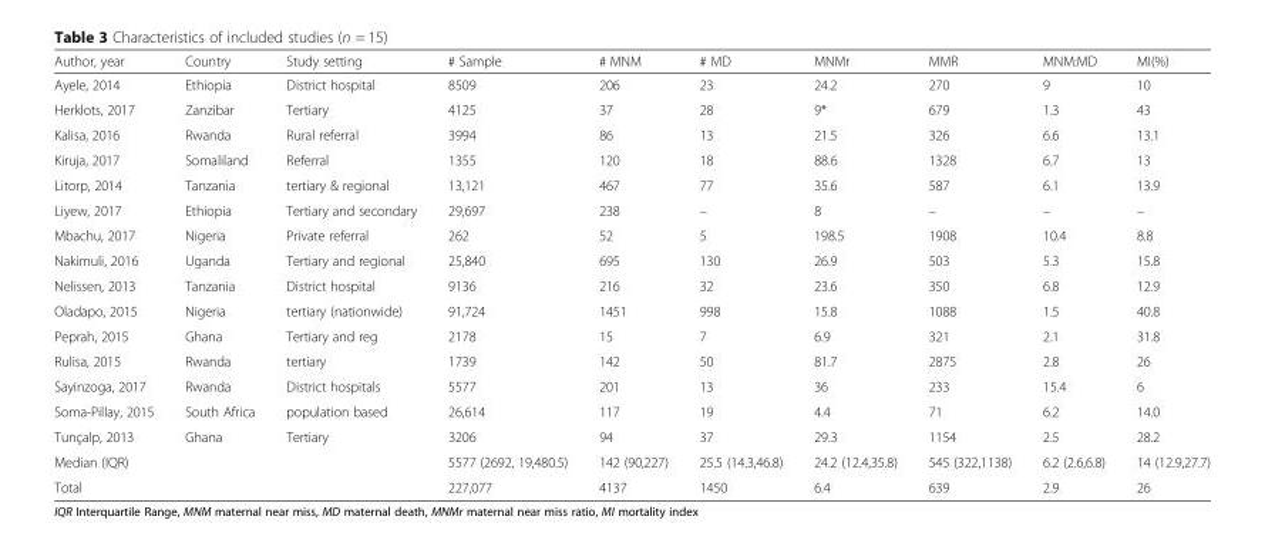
<table><thead><tr><td>Author, year</td><td>Country</td><td>Study setting</td><td># Sample</td><td># MNM</td><td># MD</td><td>MNMr</td><td>MMR</td><td>MNM:MD</td><td>MI(%)</td></tr></thead><tbody><tr><td>Ayele, 2014</td><td>Ethiopia</td><td>District hospital</td><td>8509</td><td>206</td><td>23</td><td>24.2</td><td>270</td><td>9</td><td>10</td></tr><tr><td>Herklots, 2017</td><td>Zanzibar</td><td>Tertiary</td><td>4125</td><td>37</td><td>28</td><td>9*</td><td>679</td><td>1.3</td><td>43</td></tr><tr><td>Kalisa, 2016</td><td>Rwanda</td><td>Rural referral</td><td>3994</td><td>86</td><td>13</td><td>21.5</td><td>326</td><td>6.6</td><td>13.1</td></tr><tr><td>Kiruja, 2017</td><td>Somaliland</td><td>Referral</td><td>1355</td><td>120</td><td>18</td><td>88.6</td><td>1328</td><td>6.7</td><td>13</td></tr><tr><td>Litorp, 2014</td><td>Tanzania</td><td>tertiary &amp; regional</td><td>13,121</td><td>467</td><td>77</td><td>35.6</td><td>587</td><td>6.1</td><td>13.9</td></tr><tr><td>Liyew, 2017</td><td>Ethiopia</td><td>Tertiary and secondary</td><td>29,697</td><td>238</td><td>–</td><td>8</td><td>–</td><td>–</td><td>–</td></tr><tr><td>Mbachu, 2017</td><td>Nigeria</td><td>Private referral</td><td>262</td><td>52</td><td>5</td><td>198.5</td><td>1908</td><td>10.4</td><td>8.8</td></tr><tr><td>Nakimuli, 2016</td><td>Uganda</td><td>Tertiary and regional</td><td>25,840</td><td>695</td><td>130</td><td>26.9</td><td>503</td><td>5.3</td><td>15.8</td></tr><tr><td>Nelissen, 2013</td><td>Tanzania</td><td>District hospital</td><td>9136</td><td>216</td><td>32</td><td>23.6</td><td>350</td><td>6.8</td><td>12.9</td></tr><tr><td>Oladapo, 2015</td><td>Nigeria</td><td>tertiary (nationwide)</td><td>91,724</td><td>1451</td><td>998</td><td>15.8</td><td>1088</td><td>1.5</td><td>40.8</td></tr><tr><td>Peprah, 2015</td><td>Ghana</td><td>Tertiary and reg</td><td>2178</td><td>15</td><td>7</td><td>6.9</td><td>321</td><td>2.1</td><td>31.8</td></tr><tr><td>Rulisa, 2015</td><td>Rwanda</td><td>tertiary</td><td>1739</td><td>142</td><td>50</td><td>81.7</td><td>2875</td><td>2.8</td><td>26</td></tr><tr><td>Sayinzoga, 2017</td><td>Rwanda</td><td>District hospitals</td><td>5577</td><td>201</td><td>13</td><td>36</td><td>233</td><td>15.4</td><td>6</td></tr><tr><td>Soma-Pillay, 2015</td><td>South Africa</td><td>population based</td><td>26,614</td><td>117</td><td>19</td><td>4.4</td><td>71</td><td>6.2</td><td>14.0</td></tr><tr><td>Tunçalp, 2013</td><td>Ghana</td><td>Tertiary</td><td>3206</td><td>94</td><td>37</td><td>29.3</td><td>1154</td><td>2.5</td><td>28.2</td></tr><tr><td>Median (IQR)</td><td></td><td></td><td>5577 (2692, 19,480.5)</td><td>142 (90,227)</td><td>25.5 (14.3,46.8)</td><td>24.2 (12.4,35.8)</td><td>545 (322,1138)</td><td>6.2 (2.6,6.8)</td><td>14 (12.9,27.7)</td></tr><tr><td>Total</td><td></td><td></td><td>227,077</td><td>4137</td><td>1450</td><td>6.4</td><td>639</td><td>2.9</td><td>26</td></tr></tbody></table>